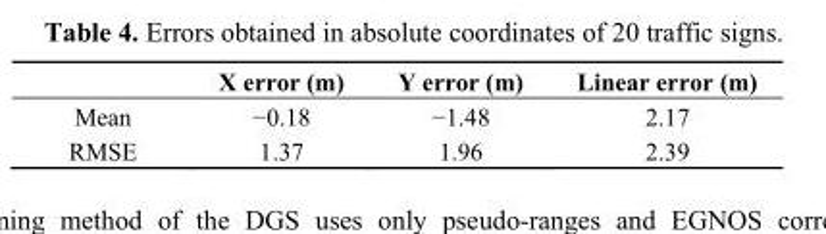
<table><thead><tr><td></td><td>X error (m)</td><td>Y error (m)</td><td>Linear error (m)</td></tr></thead><tbody><tr><td>Mean</td><td>−0.18</td><td>−1.48</td><td>2.17</td></tr><tr><td>RMSE</td><td>1.37</td><td>1.96</td><td>2.39</td></tr></tbody></table>